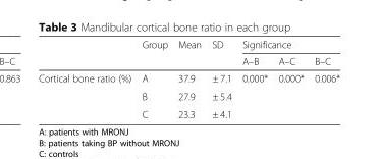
<table><thead><tr><td rowspan="2"></td><td rowspan="2">Group</td><td rowspan="2">Mean</td><td rowspan="2">SD</td><td colspan="3">Significance</td></tr><tr><td>A–B</td><td>A–C</td><td>B–C</td></tr></thead><tbody><tr><td rowspan="3">Cortical bone ratio (%)</td><td>A</td><td>37.9</td><td>± 7.1</td><td rowspan="3">0.000*</td><td rowspan="3">0.000*</td><td rowspan="3">0.006*</td></tr><tr><td>B</td><td>27.9</td><td>± 5.4</td></tr><tr><td>C</td><td>23.3</td><td>± 4.1</td></tr></tbody></table>